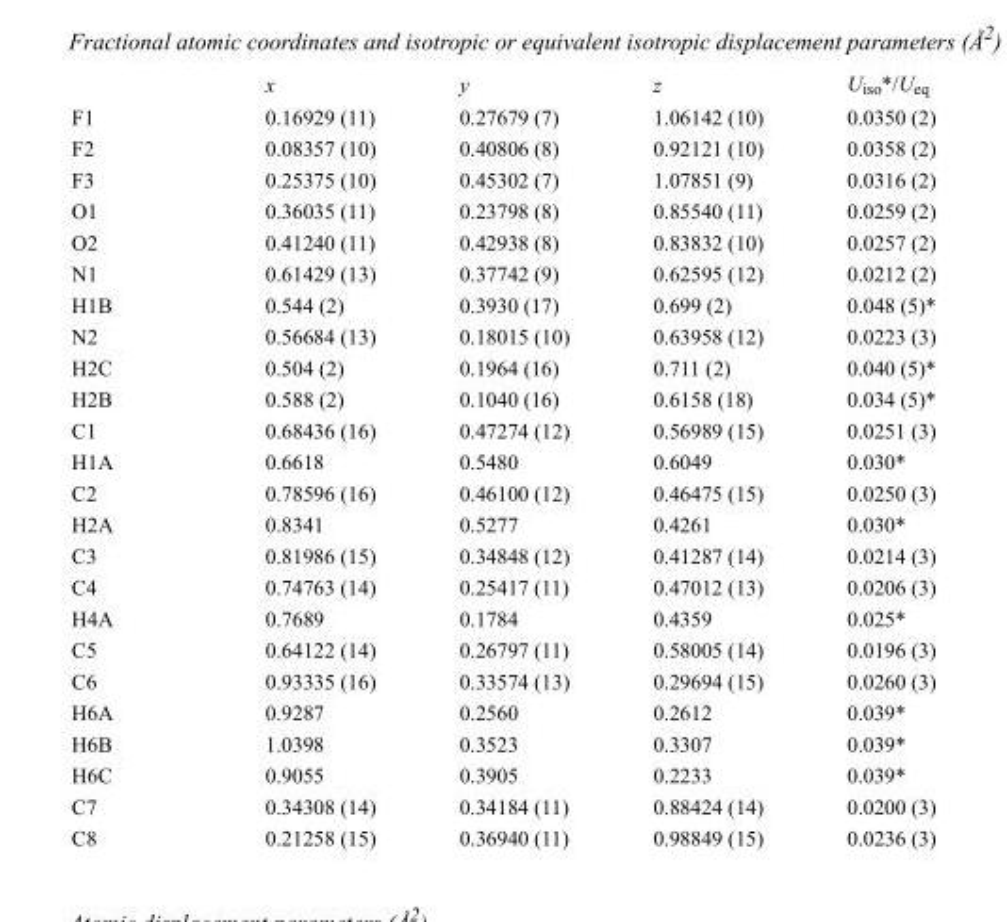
<table><thead><tr><td></td><td>x</td><td>y</td><td>z</td><td>U<sub>iso</sub>*/U<sub>eq</sub></td></tr></thead><tbody><tr><td>F1</td><td>0.16929 (11)</td><td>0.27679 (7)</td><td>1.06142 (10)</td><td>0.0350 (2)</td></tr><tr><td>F2</td><td>0.08357 (10)</td><td>0.40806 (8)</td><td>0.92121 (10)</td><td>0.0358 (2)</td></tr><tr><td>F3</td><td>0.25375 (10)</td><td>0.45302 (7)</td><td>1.07851 (9)</td><td>0.0316 (2)</td></tr><tr><td>O1</td><td>0.36035 (11)</td><td>0.23798 (8)</td><td>0.85540 (11)</td><td>0.0259 (2)</td></tr><tr><td>O2</td><td>0.41240 (11)</td><td>0.42938 (8)</td><td>0.83832 (10)</td><td>0.0257 (2)</td></tr><tr><td>N1</td><td>0.61429 (13)</td><td>0.37742 (9)</td><td>0.62595 (12)</td><td>0.0212 (2)</td></tr><tr><td>H1B</td><td>0.544 (2)</td><td>0.3930 (17)</td><td>0.699 (2)</td><td>0.048 (5)*</td></tr><tr><td>N2</td><td>0.56684 (13)</td><td>0.18015 (10)</td><td>0.63958 (12)</td><td>0.0223 (3)</td></tr><tr><td>H2C</td><td>0.504 (2)</td><td>0.1964 (16)</td><td>0.711 (2)</td><td>0.040 (5)*</td></tr><tr><td>H2B</td><td>0.588 (2)</td><td>0.1040 (16)</td><td>0.6158 (18)</td><td>0.034 (5)*</td></tr><tr><td>C1</td><td>0.68436 (16)</td><td>0.47274 (12)</td><td>0.56989 (15)</td><td>0.0251 (3)</td></tr><tr><td>H1A</td><td>0.6618</td><td>0.5480</td><td>0.6049</td><td>0.030*</td></tr><tr><td>C2</td><td>0.78596 (16)</td><td>0.46100 (12)</td><td>0.46475 (15)</td><td>0.0250 (3)</td></tr><tr><td>H2A</td><td>0.8341</td><td>0.5277</td><td>0.4261</td><td>0.030*</td></tr><tr><td>C3</td><td>0.81986 (15)</td><td>0.34848 (12)</td><td>0.41287 (14)</td><td>0.0214 (3)</td></tr><tr><td>C4</td><td>0.74763 (14)</td><td>0.25417 (11)</td><td>0.47012 (13)</td><td>0.0206 (3)</td></tr><tr><td>H4A</td><td>0.7689</td><td>0.1784</td><td>0.4359</td><td>0.025*</td></tr><tr><td>C5</td><td>0.64122 (14)</td><td>0.26797 (11)</td><td>0.58005 (14)</td><td>0.0196 (3)</td></tr><tr><td>C6</td><td>0.93335 (16)</td><td>0.33574 (13)</td><td>0.29694 (15)</td><td>0.0260 (3)</td></tr><tr><td>H6A</td><td>0.9287</td><td>0.2560</td><td>0.2612</td><td>0.039*</td></tr><tr><td>H6B</td><td>1.0398</td><td>0.3523</td><td>0.3307</td><td>0.039*</td></tr><tr><td>H6C</td><td>0.9055</td><td>0.3905</td><td>0.2233</td><td>0.039*</td></tr><tr><td>C7</td><td>0.34308 (14)</td><td>0.34184 (11)</td><td>0.88424 (14)</td><td>0.0200 (3)</td></tr><tr><td>C8</td><td>0.21258 (15)</td><td>0.36940 (11)</td><td>0.98849 (15)</td><td>0.0236 (3)</td></tr></tbody></table>